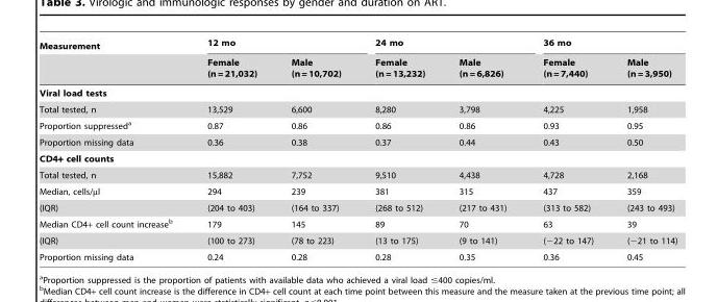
<table><thead><tr><td rowspan="2">Measurement</td><td colspan="2">12 mo</td><td colspan="2">24 mo</td><td colspan="2">36 mo</td></tr><tr><td>Female (n = 21,032)</td><td>Male (n = 10,702)</td><td>Female (n = 13,232)</td><td>Male (n = 6,826)</td><td>Female (n = 7,440)</td><td>Male (n = 3,950)</td></tr></thead><tbody><tr><td colspan="7">Viral load tests</td></tr><tr><td>Total tested, n</td><td>13,529</td><td>6,600</td><td>8,280</td><td>3,798</td><td>4,225</td><td>1,958</td></tr><tr><td>Proportion suppressed<sup>a</sup></td><td>0.87</td><td>0.86</td><td>0.86</td><td>0.86</td><td>0.93</td><td>0.95</td></tr><tr><td>Proportion missing data</td><td>0.36</td><td>0.38</td><td>0.37</td><td>0.44</td><td>0.43</td><td>0.50</td></tr><tr><td colspan="7">CD4+ cell counts</td></tr><tr><td>Total tested, n</td><td>15,882</td><td>7,752</td><td>9,510</td><td>4,438</td><td>4,728</td><td>2,168</td></tr><tr><td>Median, cells/µl</td><td>294</td><td>239</td><td>381</td><td>315</td><td>437</td><td>359</td></tr><tr><td>(IQR)</td><td>(204 to 403)</td><td>(164 to 337)</td><td>(268 to 512)</td><td>(217 to 431)</td><td>(313 to 582)</td><td>(243 to 493)</td></tr><tr><td>Median CD4+ cell count increase<sup>b</sup></td><td>179</td><td>145</td><td>89</td><td>70</td><td>63</td><td>39</td></tr><tr><td>(IQR)</td><td>(100 to 273)</td><td>(78 to 223)</td><td>(13 to 175)</td><td>(9 to 141)</td><td>(−22 to 147)</td><td>(−21 to 114)</td></tr><tr><td>Proportion missing data</td><td>0.24</td><td>0.28</td><td>0.28</td><td>0.35</td><td>0.36</td><td>0.45</td></tr></tbody></table>